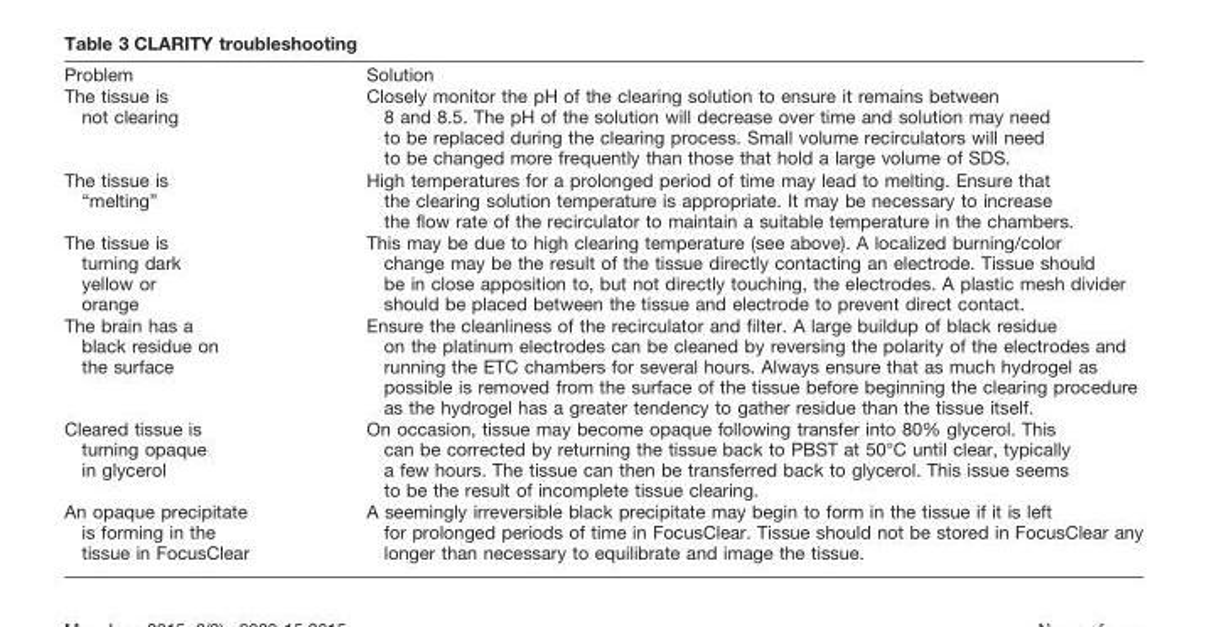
<table><thead><tr><td>Problem</td><td>Solution</td></tr></thead><tbody><tr><td>The tissue is not clearing</td><td>Closely monitor the pH of the clearing solution to ensure it remains between 8 and 8.5. The pH of the solution will decrease over time and solution may need to be replaced during the clearing process. Small volume recirculators will need to be changed more frequently than those that hold a large volume of SDS.</td></tr><tr><td>The tissue is “melting”</td><td>High temperatures for a prolonged period of time may lead to melting. Ensure that the clearing solution temperature is appropriate. It may be necessary to increase the flow rate of the recirculator to maintain a suitable temperature in the chambers.</td></tr><tr><td>The tissue is turning dark yellow or orange</td><td>This may be due to high clearing temperature (see above). A localized burning/color change may be the result of the tissue directly contacting an electrode. Tissue should be in close apposition to, but not directly touching, the electrodes. A plastic mesh divider should be placed between the tissue and electrode to prevent direct contact.</td></tr><tr><td>The brain has a black residue on the surface</td><td>Ensure the cleanliness of the recirculator and filter. A large buildup of black residue on the platinum electrodes can be cleaned by reversing the polarity of the electrodes and running the ETC chambers for several hours. Always ensure that as much hydrogel as possible is removed from the surface of the tissue before beginning the clearing procedure as the hydrogel has a greater tendency to gather residue than the tissue itself.</td></tr><tr><td>Cleared tissue is turning opaque in glycerol</td><td>On occasion, tissue may become opaque following transfer into 80% glycerol. This can be corrected by returning the tissue back to PBST at 50°C until clear, typically a few hours. The tissue can then be transferred back to glycerol. This issue seems to be the result of incomplete tissue clearing.</td></tr><tr><td>An opaque precipitate is forming in the tissue in FocusClear</td><td>A seemingly irreversible black precipitate may begin to form in the tissue if it is left for prolonged periods of time in FocusClear. Tissue should not be stored in FocusClear any longer than necessary to equilibrate and image the tissue.</td></tr></tbody></table>